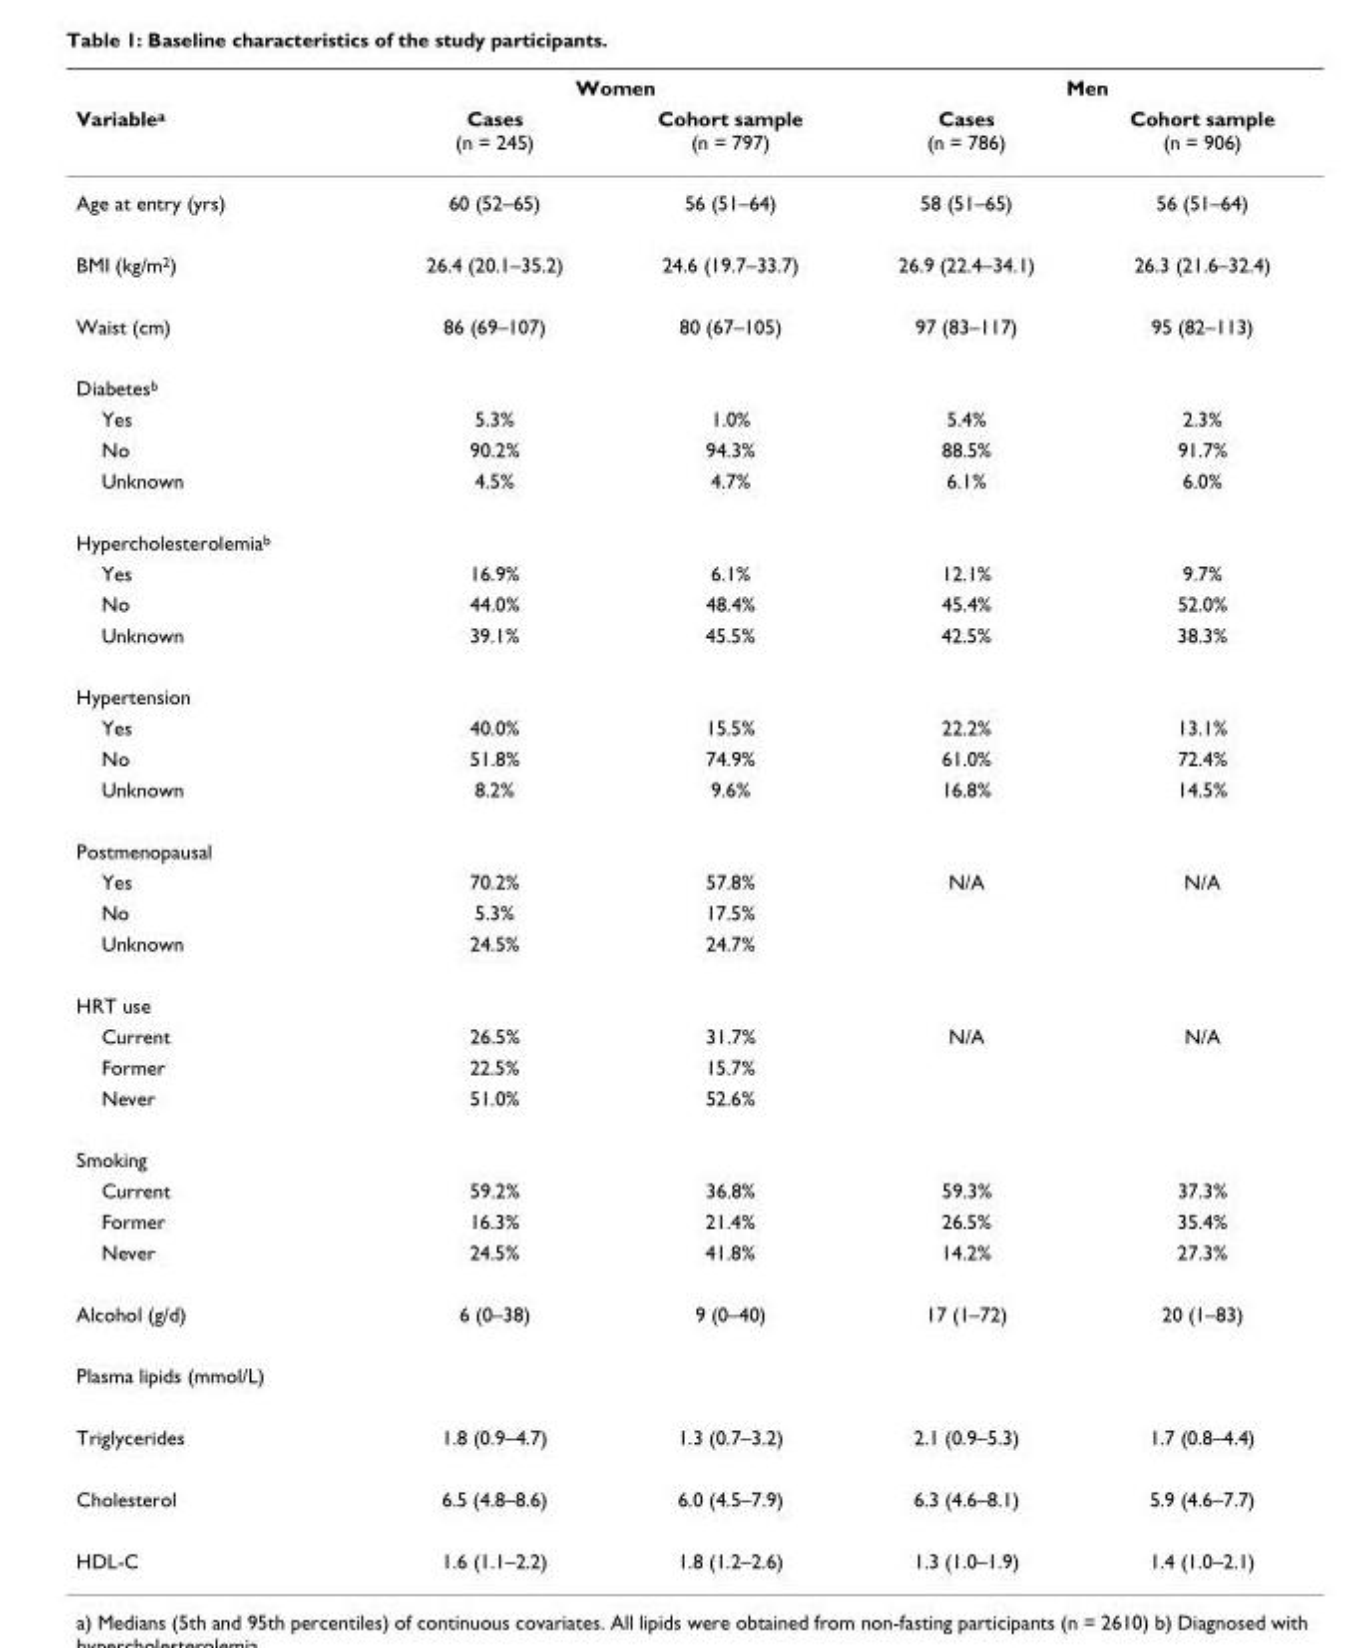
<table><thead><tr><td rowspan="2">Variable<sup>a</sup></td><td colspan="2">Women</td><td colspan="2">Men</td></tr><tr><td>Cases (n = 245)</td><td>Cohort sample (n = 797)</td><td>Cases (n = 786)</td><td>Cohort sample (n = 906)</td></tr></thead><tbody><tr><td>Age at entry (yrs)</td><td>60 (52–65)</td><td>56 (51–64)</td><td>58 (51–65)</td><td>56 (51–64)</td></tr><tr><td>BMI (kg/m<sup>2</sup>)</td><td>26.4 (20.1–35.2)</td><td>24.6 (19.7–33.7)</td><td>26.9 (22.4–34.1)</td><td>26.3 (21.6–32.4)</td></tr><tr><td>Waist (cm)</td><td>86 (69–107)</td><td>80 (67–105)</td><td>97 (83–117)</td><td>95 (82–113)</td></tr><tr><td colspan="5">Diabetes<sup>b</sup></td></tr><tr><td>Yes</td><td>5.3%</td><td>1.0%</td><td>5.4%</td><td>2.3%</td></tr><tr><td>No</td><td>90.2%</td><td>94.3%</td><td>88.5%</td><td>91.7%</td></tr><tr><td>Unknown</td><td>4.5%</td><td>4.7%</td><td>6.1%</td><td>6.0%</td></tr><tr><td colspan="5">Hypercholesterolemia<sup>b</sup></td></tr><tr><td>Yes</td><td>16.9%</td><td>6.1%</td><td>12.1%</td><td>9.7%</td></tr><tr><td>No</td><td>44.0%</td><td>48.4%</td><td>45.4%</td><td>52.0%</td></tr><tr><td>Unknown</td><td>39.1%</td><td>45.5%</td><td>42.5%</td><td>38.3%</td></tr><tr><td colspan="5">Hypertension</td></tr><tr><td>Yes</td><td>40.0%</td><td>15.5%</td><td>22.2%</td><td>13.1%</td></tr><tr><td>No</td><td>51.8%</td><td>74.9%</td><td>61.0%</td><td>72.4%</td></tr><tr><td>Unknown</td><td>8.2%</td><td>9.6%</td><td>16.8%</td><td>14.5%</td></tr><tr><td colspan="5">Postmenopausal</td></tr><tr><td>Yes</td><td>70.2%</td><td>57.8%</td><td>N/A</td><td>N/A</td></tr><tr><td>No</td><td>5.3%</td><td>17.5%</td><td></td><td></td></tr><tr><td>Unknown</td><td>24.5%</td><td>24.7%</td><td></td><td></td></tr><tr><td colspan="5">HRT use</td></tr><tr><td>Current</td><td>26.5%</td><td>31.7%</td><td>N/A</td><td>N/A</td></tr><tr><td>Former</td><td>22.5%</td><td>15.7%</td><td></td><td></td></tr><tr><td>Never</td><td>51.0%</td><td>52.6%</td><td></td><td></td></tr><tr><td colspan="5">Smoking</td></tr><tr><td>Current</td><td>59.2%</td><td>36.8%</td><td>59.3%</td><td>37.3%</td></tr><tr><td>Former</td><td>16.3%</td><td>21.4%</td><td>26.5%</td><td>35.4%</td></tr><tr><td>Never</td><td>24.5%</td><td>41.8%</td><td>14.2%</td><td>27.3%</td></tr><tr><td>Alcohol (g/d)</td><td>6 (0–38)</td><td>9 (0–40)</td><td>17 (1–72)</td><td>20 (1–83)</td></tr><tr><td colspan="5">Plasma lipids (mmol/L)</td></tr><tr><td>Triglycerides</td><td>1.8 (0.9–4.7)</td><td>1.3 (0.7–3.2)</td><td>2.1 (0.9–5.3)</td><td>1.7 (0.8–4.4)</td></tr><tr><td>Cholesterol</td><td>6.5 (4.8–8.6)</td><td>6.0 (4.5–7.9)</td><td>6.3 (4.6–8.1)</td><td>5.9 (4.6–7.7)</td></tr><tr><td>HDL-C</td><td>1.6 (1.1–2.2)</td><td>1.8 (1.2–2.6)</td><td>1.3 (1.0–1.9)</td><td>1.4 (1.0–2.1)</td></tr></tbody></table>